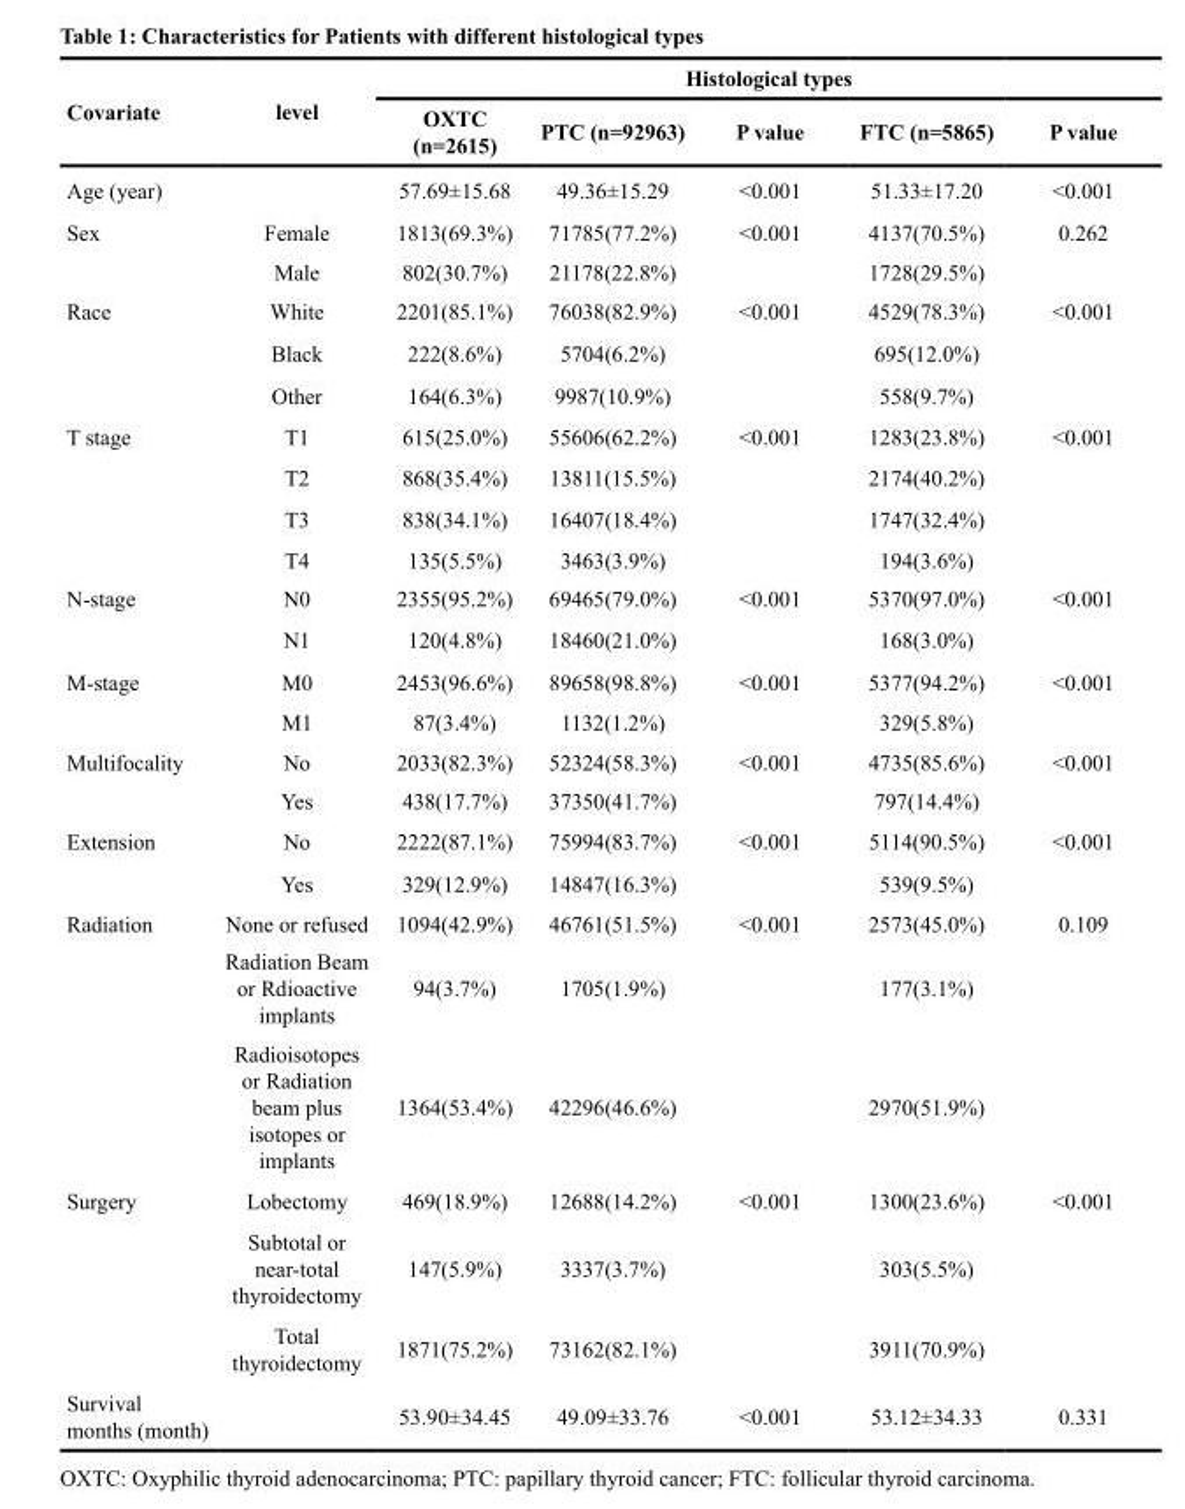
<table><thead><tr><td rowspan="2">Covariate</td><td rowspan="2">level</td><td colspan="5">Histological types</td></tr><tr><td>OXTC (n=2615)</td><td>PTC (n=92963)</td><td>P value</td><td>FTC (n=5865)</td><td>P value</td></tr></thead><tbody><tr><td>Age (year)</td><td></td><td>57.69±15.68</td><td>49.36±15.29</td><td>&lt;0.001</td><td>51.33±17.20</td><td>&lt;0.001</td></tr><tr><td rowspan="2">Sex</td><td>Female</td><td>1813(69.3%)</td><td>71785(77.2%)</td><td>&lt;0.001</td><td>4137(70.5%)</td><td>0.262</td></tr><tr><td>Male</td><td>802(30.7%)</td><td>21178(22.8%)</td><td></td><td>1728(29.5%)</td><td></td></tr><tr><td rowspan="3">Race</td><td>White</td><td>2201(85.1%)</td><td>76038(82.9%)</td><td>&lt;0.001</td><td>4529(78.3%)</td><td>&lt;0.001</td></tr><tr><td>Black</td><td>222(8.6%)</td><td>5704(6.2%)</td><td></td><td>695(12.0%)</td><td></td></tr><tr><td>Other</td><td>164(6.3%)</td><td>9987(10.9%)</td><td></td><td>558(9.7%)</td><td></td></tr><tr><td rowspan="4">T stage</td><td>T1</td><td>615(25.0%)</td><td>55606(62.2%)</td><td>&lt;0.001</td><td>1283(23.8%)</td><td>&lt;0.001</td></tr><tr><td>T2</td><td>868(35.4%)</td><td>13811(15.5%)</td><td></td><td>2174(40.2%)</td><td></td></tr><tr><td>T3</td><td>838(34.1%)</td><td>16407(18.4%)</td><td></td><td>1747(32.4%)</td><td></td></tr><tr><td>T4</td><td>135(5.5%)</td><td>3463(3.9%)</td><td></td><td>194(3.6%)</td><td></td></tr><tr><td rowspan="2">N-stage</td><td>N0</td><td>2355(95.2%)</td><td>69465(79.0%)</td><td>&lt;0.001</td><td>5370(97.0%)</td><td>&lt;0.001</td></tr><tr><td>N1</td><td>120(4.8%)</td><td>18460(21.0%)</td><td></td><td>168(3.0%)</td><td></td></tr><tr><td rowspan="2">M-stage</td><td>M0</td><td>2453(96.6%)</td><td>89658(98.8%)</td><td>&lt;0.001</td><td>5377(94.2%)</td><td>&lt;0.001</td></tr><tr><td>M1</td><td>87(3.4%)</td><td>1132(1.2%)</td><td></td><td>329(5.8%)</td><td></td></tr><tr><td rowspan="2">Multifocality</td><td>No</td><td>2033(82.3%)</td><td>52324(58.3%)</td><td>&lt;0.001</td><td>4735(85.6%)</td><td>&lt;0.001</td></tr><tr><td>Yes</td><td>438(17.7%)</td><td>37350(41.7%)</td><td></td><td>797(14.4%)</td><td></td></tr><tr><td rowspan="2">Extension</td><td>No</td><td>2222(87.1%)</td><td>75994(83.7%)</td><td>&lt;0.001</td><td>5114(90.5%)</td><td>&lt;0.001</td></tr><tr><td>Yes</td><td>329(12.9%)</td><td>14847(16.3%)</td><td></td><td>539(9.5%)</td><td></td></tr><tr><td rowspan="3">Radiation</td><td>None or refused</td><td>1094(42.9%)</td><td>46761(51.5%)</td><td>&lt;0.001</td><td>2573(45.0%)</td><td>0.109</td></tr><tr><td>Radiation Beam or Rdioactive implants</td><td>94(3.7%)</td><td>1705(1.9%)</td><td></td><td>177(3.1%)</td><td></td></tr><tr><td>Radioisotopes or Radiation beam plus isotopes or implants</td><td>1364(53.4%)</td><td>42296(46.6%)</td><td></td><td>2970(51.9%)</td><td></td></tr><tr><td rowspan="3">Surgery</td><td>Lobectomy</td><td>469(18.9%)</td><td>12688(14.2%)</td><td>&lt;0.001</td><td>1300(23.6%)</td><td>&lt;0.001</td></tr><tr><td>Subtotal or near-total thyroidectomy</td><td>147(5.9%)</td><td>3337(3.7%)</td><td></td><td>303(5.5%)</td><td></td></tr><tr><td>Total thyroidectomy</td><td>1871(75.2%)</td><td>73162(82.1%)</td><td></td><td>3911(70.9%)</td><td></td></tr><tr><td>Survival months (month)</td><td></td><td>53.90±34.45</td><td>49.09±33.76</td><td>&lt;0.001</td><td>53.12±34.33</td><td>0.331</td></tr></tbody></table>